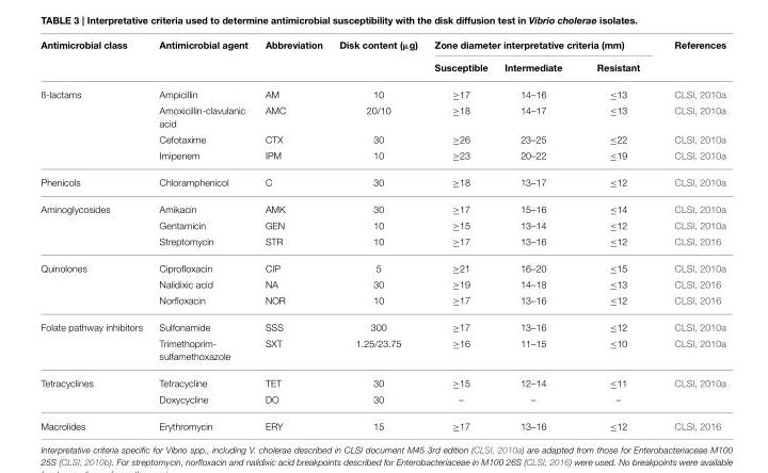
<table><thead><tr><td rowspan="2">Antimicrobial class</td><td rowspan="2">Antimicrobial agent</td><td rowspan="2">Abbreviation</td><td rowspan="2">Disk content (µg)</td><td colspan="3">Zone diameter interpretative criteria (mm)</td><td rowspan="2">References</td></tr><tr><td>Susceptible</td><td>Intermediate</td><td>Resistant</td></tr></thead><tbody><tr><td rowspan="4">ß-lactams</td><td>Ampicillin</td><td>AM</td><td>10</td><td>≥17</td><td>14–16</td><td>≤13</td><td>CLSI, 2010a</td></tr><tr><td>Amoxicillin-clavulanic acid</td><td>AMC</td><td>20/10</td><td>≥18</td><td>14–17</td><td>≤13</td><td>CLSI, 2010a</td></tr><tr><td>Cefotaxime</td><td>CTX</td><td>30</td><td>≥26</td><td>23–25</td><td>≤22</td><td>CLSI, 2010a</td></tr><tr><td>Imipenem</td><td>IPM</td><td>10</td><td>≥23</td><td>20–22</td><td>≤19</td><td>CLSI, 2010a</td></tr><tr><td>Phenicols</td><td>Chloramphenicol</td><td>C</td><td>30</td><td>≥18</td><td>13–17</td><td>≤12</td><td>CLSI, 2010a</td></tr><tr><td rowspan="3">Aminoglycosides</td><td>Amikacin</td><td>AMK</td><td>30</td><td>≥17</td><td>15–16</td><td>≤14</td><td>CLSI, 2010a</td></tr><tr><td>Gentamicin</td><td>GEN</td><td>10</td><td>≥15</td><td>13–14</td><td>≤12</td><td>CLSI, 2010a</td></tr><tr><td>Streptomycin</td><td>STR</td><td>10</td><td>≥17</td><td>13–16</td><td>≤12</td><td>CLSI, 2016</td></tr><tr><td rowspan="3">Quinolones</td><td>Ciprofloxacin</td><td>CIP</td><td>5</td><td>≥21</td><td>16–20</td><td>≤15</td><td>CLSI, 2010a</td></tr><tr><td>Nalidixic acid</td><td>NA</td><td>30</td><td>≥19</td><td>14–18</td><td>≤13</td><td>CLSI, 2016</td></tr><tr><td>Norfloxacin</td><td>NOR</td><td>10</td><td>≥17</td><td>13–16</td><td>≤12</td><td>CLSI, 2016</td></tr><tr><td rowspan="2">Folate pathway inhibitors</td><td>Sulfonamide</td><td>SSS</td><td>300</td><td>≥17</td><td>13–16</td><td>≤12</td><td>CLSI, 2010a</td></tr><tr><td>Trimethoprim- sulfamethoxazole</td><td>SXT</td><td>1.25/23.75</td><td>≥16</td><td>11–15</td><td>≤10</td><td>CLSI, 2010a</td></tr><tr><td rowspan="2">Tetracyclines</td><td>Tetracycline</td><td>TET</td><td>30</td><td>≥15</td><td>12–14</td><td>≤11</td><td>CLSI, 2010a</td></tr><tr><td>Doxycycline</td><td>DO</td><td>30</td><td>–</td><td>–</td><td>–</td><td></td></tr><tr><td>Macrolides</td><td>Erythromycin</td><td>ERY</td><td>15</td><td>≥17</td><td>13–16</td><td>≤12</td><td>CLSI, 2016</td></tr></tbody></table>